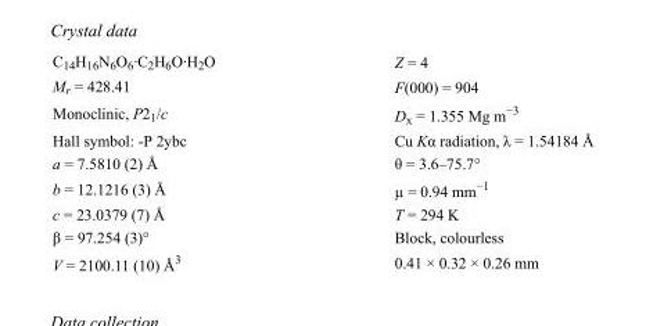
<table><tbody><tr><td>C<sub>14</sub>H<sub>16</sub>N<sub>6</sub>O<sub>6</sub>·C<sub>2</sub>H<sub>6</sub>O·H<sub>2</sub>O</td><td>Z = 4</td></tr><tr><td>M<sub>r</sub> = 428.41</td><td>F(000) = 904</td></tr><tr><td>Monoclinic, P2<sub>1</sub>/c</td><td>D<sub>x</sub> = 1.355 Mg m<sup>−3</sup></td></tr><tr><td>Hall symbol: -P 2ybc</td><td>Cu Kα radiation, λ = 1.54184 Å</td></tr><tr><td>a = 7.5810 (2) Å</td><td>θ = 3.6–75.7°</td></tr><tr><td>b = 12.1216 (3) Å</td><td>µ = 0.94 mm<sup>−1</sup></td></tr><tr><td>c = 23.0379 (7) Å</td><td>T = 294 K</td></tr><tr><td>β = 97.254 (3)°</td><td>Block, colourless</td></tr><tr><td>V = 2100.11 (10) Å<sup>3</sup></td><td>0.41 × 0.32 × 0.26 mm</td></tr></tbody></table>